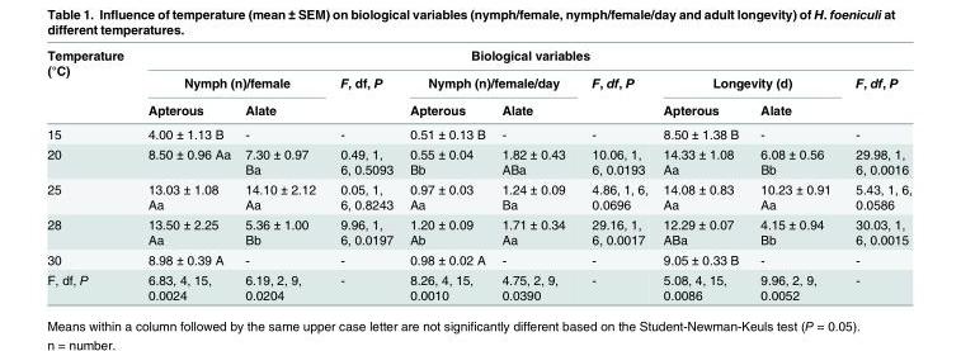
<table><thead><tr><td rowspan="3">Temperature (°C)</td><td colspan="9">Biological variables</td></tr><tr><td colspan="2">Nymph (n)/female</td><td rowspan="2">F, df, P</td><td colspan="2">Nymph (n)/female/day</td><td rowspan="2">F, df, P</td><td colspan="2">Longevity (d)</td><td rowspan="2">F, df, P</td></tr><tr><td>Apterous</td><td>Alate</td><td>Apterous</td><td>Alate</td><td>Apterous</td><td>Alate</td></tr></thead><tbody><tr><td>15</td><td>4.00 ± 1.13 B</td><td>-</td><td>-</td><td>0.51 ± 0.13 B</td><td>-</td><td>-</td><td>8.50 ± 1.38 B</td><td>-</td><td>-</td></tr><tr><td>20</td><td>8.50 ± 0.96 Aa</td><td>7.30 ± 0.97 Ba</td><td>0.49, 1, 6, 0.5093</td><td>0.55 ± 0.04 Bb</td><td>1.82 ± 0.43 ABa</td><td>10.06, 1, 6, 0.0193</td><td>14.33 ± 1.08 Aa</td><td>6.08 ± 0.56 Bb</td><td>29.98, 1, 6, 0.0016</td></tr><tr><td>25</td><td>13.03 ± 1.08 Aa</td><td>14.10 ± 2.12 Aa</td><td>0.05, 1, 6, 0.8243</td><td>0.97 ± 0.03 Aa</td><td>1.24 ± 0.09 Ba</td><td>4.86, 1, 6, 0.0696</td><td>14.08 ± 0.83 Aa</td><td>10.23 ± 0.91 Aa</td><td>5.43, 1, 6, 0.0586</td></tr><tr><td>28</td><td>13.50 ± 2.25 Aa</td><td>5.36 ± 1.00 Bb</td><td>9.96, 1, 6, 0.0197</td><td>1.20 ± 0.09 Ab</td><td>1.71 ± 0.34 Aa</td><td>29.16, 1, 6, 0.0017</td><td>12.29 ± 0.07 ABa</td><td>4.15 ± 0.94 Bb</td><td>30.03, 1, 6, 0.0015</td></tr><tr><td>30</td><td>8.98 ± 0.39 A</td><td>-</td><td>-</td><td>0.98 ± 0.02 A</td><td>-</td><td>-</td><td>9.05 ± 0.33 B</td><td>-</td><td>-</td></tr><tr><td>F, df, P</td><td>6.83, 4, 15, 0.0024</td><td>6.19, 2, 9, 0.0204</td><td>-</td><td>8.26, 4, 15, 0.0010</td><td>4.75, 2, 9, 0.0390</td><td>-</td><td>5.08, 4, 15, 0.0086</td><td>9.96, 2, 9, 0.0052</td><td>-</td></tr></tbody></table>